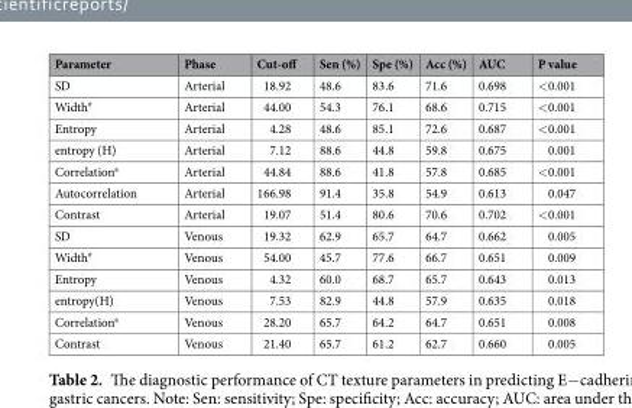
<table><thead><tr><td>Parameter</td><td>Phase</td><td>Cut-off</td><td>Sen (%)</td><td>Spe (%)</td><td>Acc (%)</td><td>AUC</td><td>P value</td></tr></thead><tbody><tr><td>SD</td><td>Arterial</td><td>18.92</td><td>48.6</td><td>83.6</td><td>71.6</td><td>0.698</td><td>&lt;0.001</td></tr><tr><td>Width<sup>#</sup></td><td>Arterial</td><td>44.00</td><td>54.3</td><td>76.1</td><td>68.6</td><td>0.715</td><td>&lt;0.001</td></tr><tr><td>Entropy</td><td>Arterial</td><td>4.28</td><td>48.6</td><td>85.1</td><td>72.6</td><td>0.687</td><td>&lt;0.001</td></tr><tr><td>entropy (H)</td><td>Arterial</td><td>7.12</td><td>88.6</td><td>44.8</td><td>59.8</td><td>0.675</td><td>0.001</td></tr><tr><td>Correlation<sup>a</sup></td><td>Arterial</td><td>44.84</td><td>88.6</td><td>41.8</td><td>57.8</td><td>0.685</td><td>&lt;0.001</td></tr><tr><td>Autocorrelation</td><td>Arterial</td><td>166.98</td><td>91.4</td><td>35.8</td><td>54.9</td><td>0.613</td><td>0.047</td></tr><tr><td>Contrast</td><td>Arterial</td><td>19.07</td><td>51.4</td><td>80.6</td><td>70.6</td><td>0.702</td><td>&lt;0.001</td></tr><tr><td>SD</td><td>Venous</td><td>19.32</td><td>62.9</td><td>65.7</td><td>64.7</td><td>0.662</td><td>0.005</td></tr><tr><td>Width<sup>#</sup></td><td>Venous</td><td>54.00</td><td>45.7</td><td>77.6</td><td>66.7</td><td>0.651</td><td>0.009</td></tr><tr><td>Entropy</td><td>Venous</td><td>4.32</td><td>60.0</td><td>68.7</td><td>65.7</td><td>0.643</td><td>0.013</td></tr><tr><td>entropy(H)</td><td>Venous</td><td>7.53</td><td>82.9</td><td>44.8</td><td>57.9</td><td>0.635</td><td>0.018</td></tr><tr><td>Correlation<sup>a</sup></td><td>Venous</td><td>28.20</td><td>65.7</td><td>64.2</td><td>64.7</td><td>0.651</td><td>0.008</td></tr><tr><td>Contrast</td><td>Venous</td><td>21.40</td><td>65.7</td><td>61.2</td><td>62.7</td><td>0.660</td><td>0.005</td></tr></tbody></table>